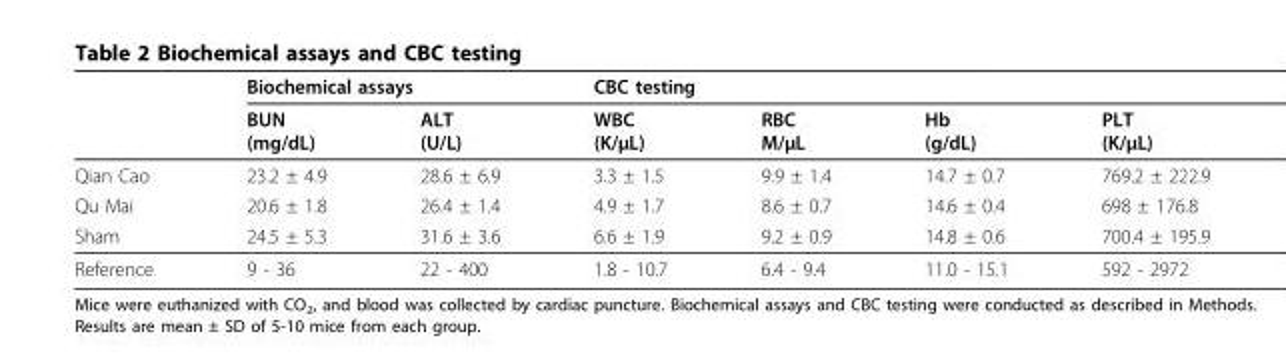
<table><thead><tr><td rowspan="2"></td><td colspan="2">Biochemical assays</td><td colspan="4">CBC testing</td></tr><tr><td>BUN (mg/dL)</td><td>ALT (U/L)</td><td>WBC (K/μL)</td><td>RBC M/μL</td><td>Hb (g/dL)</td><td>PLT (K/μL)</td></tr></thead><tbody><tr><td>Qian Cao</td><td>23.2 ± 4.9</td><td>28.6 ± 6.9</td><td>3.3 ± 1.5</td><td>9.9 ± 1.4</td><td>14.7 ± 0.7</td><td>769.2 ± 222.9</td></tr><tr><td>Qu Mai</td><td>20.6 ± 1.8</td><td>26.4 ± 1.4</td><td>4.9 ± 1.7</td><td>8.6 ± 0.7</td><td>14.6 ± 0.4</td><td>698 ± 176.8</td></tr><tr><td>Sham</td><td>24.5 ± 5.3</td><td>31.6 ± 3.6</td><td>6.6 ± 1.9</td><td>9.2 ± 0.9</td><td>14.8 ± 0.6</td><td>700.4 ± 195.9</td></tr><tr><td>Reference</td><td>9 - 36</td><td>22 - 400</td><td>1.8 - 10.7</td><td>6.4 - 9.4</td><td>11.0 - 15.1</td><td>592 - 2972</td></tr></tbody></table>